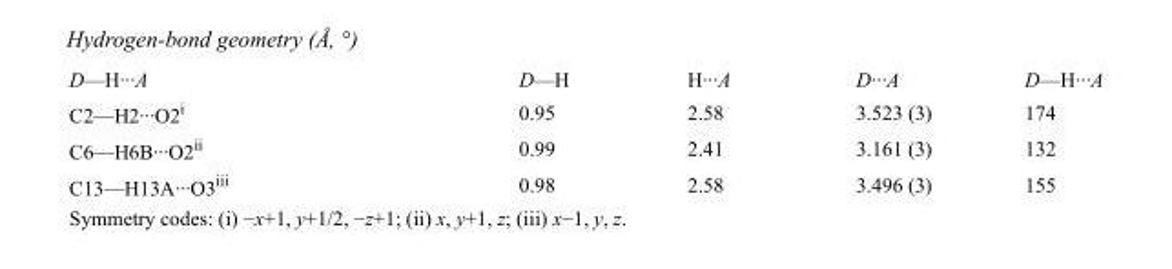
<table><tbody><tr><td>D—H···A</td><td>D—H</td><td>H···A</td><td>D···A</td><td>D—H···A</td></tr><tr><td>C2—H2···O2<sup>i</sup></td><td>0.95</td><td>2.58</td><td>3.523 (3)</td><td>174</td></tr><tr><td>C6—H6B···O2<sup>ii</sup></td><td>0.99</td><td>2.41</td><td>3.161 (3)</td><td>132</td></tr><tr><td>C13—H13A···O3<sup>iii</sup></td><td>0.98</td><td>2.58</td><td>3.496 (3)</td><td>155</td></tr></tbody></table>